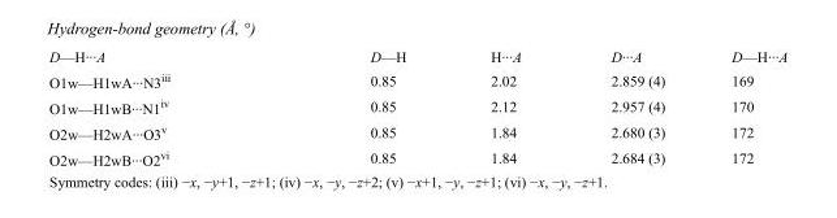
<table><tbody><tr><td>D—H···A</td><td>D—H</td><td>H···A</td><td>D···A</td><td>D—H···A</td></tr><tr><td>O1w—H1wA···N3<sup>iii</sup></td><td>0.85</td><td>2.02</td><td>2.859 (4)</td><td>169</td></tr><tr><td>O1w—H1wB···N1<sup>iv</sup></td><td>0.85</td><td>2.12</td><td>2.957 (4)</td><td>170</td></tr><tr><td>O2w—H2wA···O3<sup>v</sup></td><td>0.85</td><td>1.84</td><td>2.680 (3)</td><td>172</td></tr><tr><td>O2w—H2wB···O2<sup>vi</sup></td><td>0.85</td><td>1.84</td><td>2.684 (3)</td><td>172</td></tr></tbody></table>